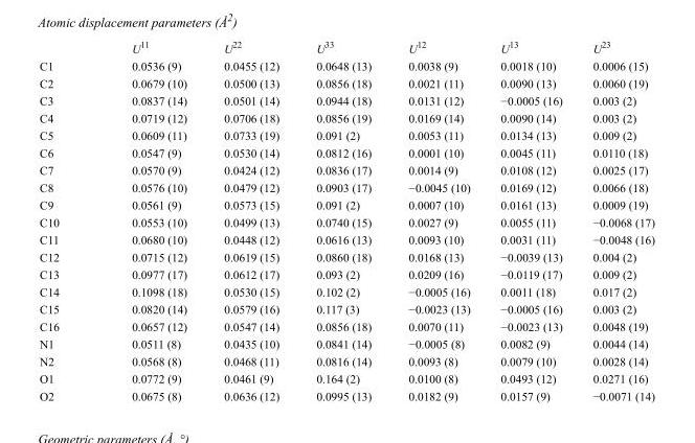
<table><thead><tr><td></td><td>U<sup>11</sup></td><td>U<sup>22</sup></td><td>U<sup>33</sup></td><td>U<sup>12</sup></td><td>U<sup>13</sup></td><td>U<sup>23</sup></td></tr></thead><tbody><tr><td>C1</td><td>0.0536 (9)</td><td>0.0455 (12)</td><td>0.0648 (13)</td><td>0.0038 (9)</td><td>0.0018 (10)</td><td>0.0006 (15)</td></tr><tr><td>C2</td><td>0.0679 (10)</td><td>0.0500 (13)</td><td>0.0856 (18)</td><td>0.0021 (11)</td><td>0.0090 (13)</td><td>0.0060 (19)</td></tr><tr><td>C3</td><td>0.0837 (14)</td><td>0.0501 (14)</td><td>0.0944 (18)</td><td>0.0131 (12)</td><td>−0.0005 (16)</td><td>0.003 (2)</td></tr><tr><td>C4</td><td>0.0719 (12)</td><td>0.0706 (18)</td><td>0.0856 (19)</td><td>0.0169 (14)</td><td>0.0090 (14)</td><td>0.003 (2)</td></tr><tr><td>C5</td><td>0.0609 (11)</td><td>0.0733 (19)</td><td>0.091 (2)</td><td>0.0053 (11)</td><td>0.0134 (13)</td><td>0.009 (2)</td></tr><tr><td>C6</td><td>0.0547 (9)</td><td>0.0530 (14)</td><td>0.0812 (16)</td><td>0.0001 (10)</td><td>0.0045 (11)</td><td>0.0110 (18)</td></tr><tr><td>C7</td><td>0.0570 (9)</td><td>0.0424 (12)</td><td>0.0836 (17)</td><td>0.0014 (9)</td><td>0.0108 (12)</td><td>0.0025 (17)</td></tr><tr><td>C8</td><td>0.0576 (10)</td><td>0.0479 (12)</td><td>0.0903 (17)</td><td>−0.0045 (10)</td><td>0.0169 (12)</td><td>0.0066 (18)</td></tr><tr><td>C9</td><td>0.0561 (9)</td><td>0.0573 (15)</td><td>0.091 (2)</td><td>0.0007 (10)</td><td>0.0161 (13)</td><td>0.0009 (19)</td></tr><tr><td>C10</td><td>0.0553 (10)</td><td>0.0499 (13)</td><td>0.0740 (15)</td><td>0.0027 (9)</td><td>0.0055 (11)</td><td>−0.0068 (17)</td></tr><tr><td>C11</td><td>0.0680 (10)</td><td>0.0448 (12)</td><td>0.0616 (13)</td><td>0.0093 (10)</td><td>0.0031 (11)</td><td>−0.0048 (16)</td></tr><tr><td>C12</td><td>0.0715 (12)</td><td>0.0619 (15)</td><td>0.0860 (18)</td><td>0.0168 (13)</td><td>−0.0039 (13)</td><td>0.004 (2)</td></tr><tr><td>C13</td><td>0.0977 (17)</td><td>0.0612 (17)</td><td>0.093 (2)</td><td>0.0209 (16)</td><td>−0.0119 (17)</td><td>0.009 (2)</td></tr><tr><td>C14</td><td>0.1098 (18)</td><td>0.0530 (15)</td><td>0.102 (2)</td><td>−0.0005 (16)</td><td>0.0011 (18)</td><td>0.017 (2)</td></tr><tr><td>C15</td><td>0.0820 (14)</td><td>0.0579 (16)</td><td>0.117 (3)</td><td>−0.0023 (13)</td><td>−0.0005 (16)</td><td>0.003 (2)</td></tr><tr><td>C16</td><td>0.0657 (12)</td><td>0.0547 (14)</td><td>0.0856 (18)</td><td>0.0070 (11)</td><td>−0.0023 (13)</td><td>0.0048 (19)</td></tr><tr><td>N1</td><td>0.0511 (8)</td><td>0.0435 (10)</td><td>0.0841 (14)</td><td>−0.0005 (8)</td><td>0.0082 (9)</td><td>0.0044 (14)</td></tr><tr><td>N2</td><td>0.0568 (8)</td><td>0.0468 (11)</td><td>0.0816 (14)</td><td>0.0093 (8)</td><td>0.0079 (10)</td><td>0.0028 (14)</td></tr><tr><td>O1</td><td>0.0772 (9)</td><td>0.0461 (9)</td><td>0.164 (2)</td><td>0.0100 (8)</td><td>0.0493 (12)</td><td>0.0271 (16)</td></tr><tr><td>O2</td><td>0.0675 (8)</td><td>0.0636 (12)</td><td>0.0995 (13)</td><td>0.0182 (9)</td><td>0.0157 (9)</td><td>−0.0071 (14)</td></tr></tbody></table>